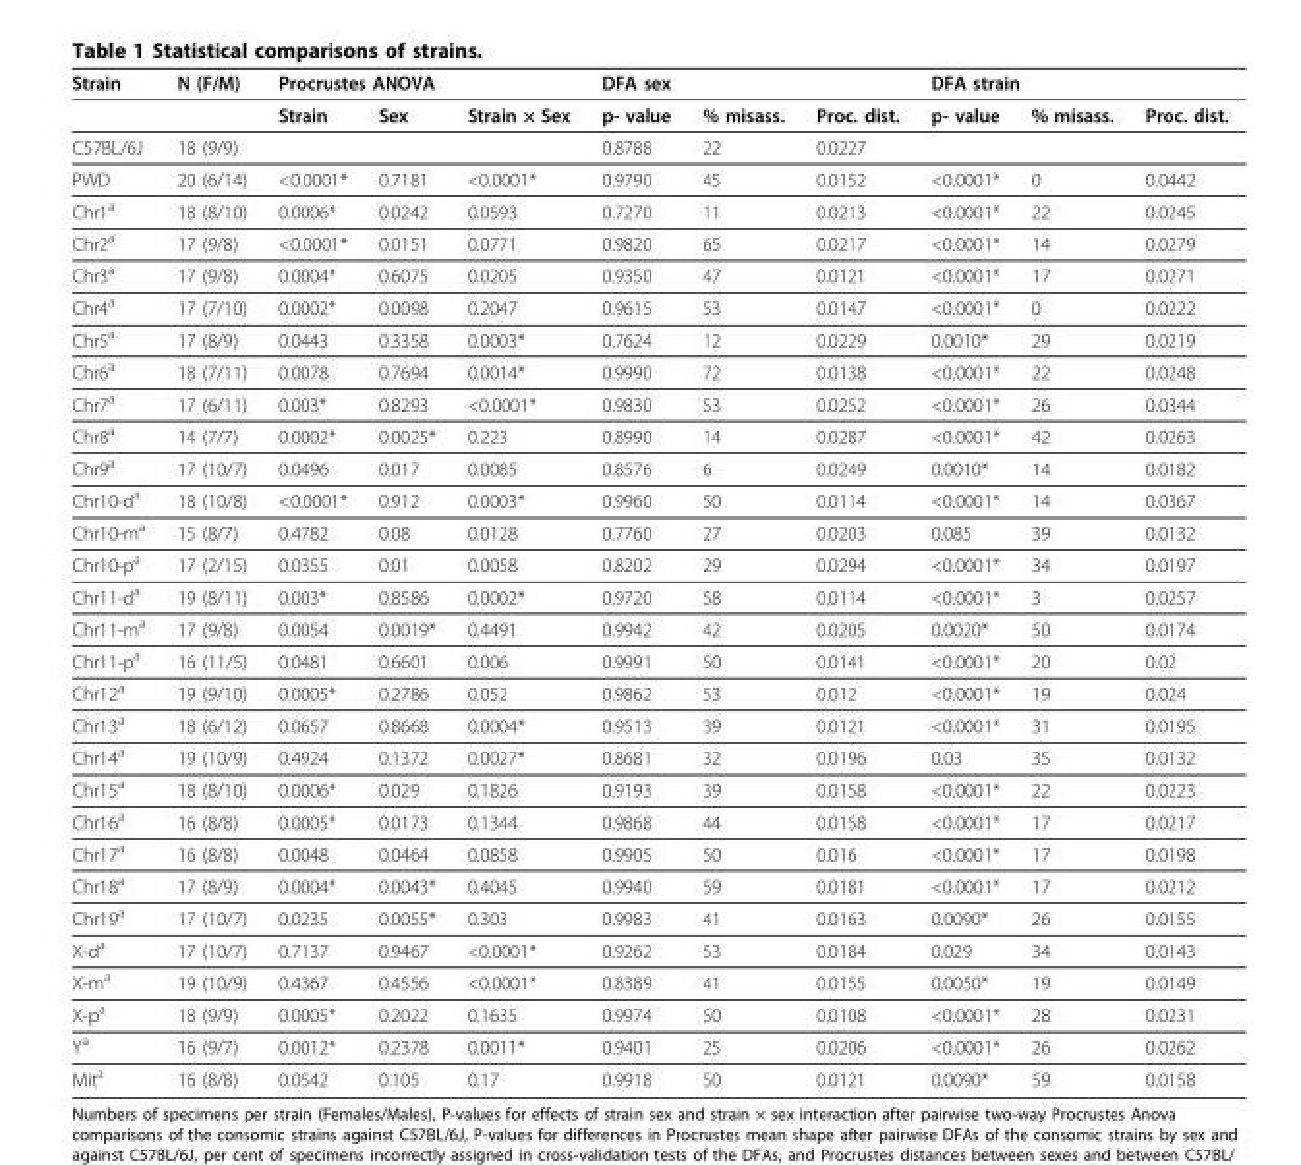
<table><thead><tr><td rowspan="2">Strain</td><td rowspan="2">N (F/M)</td><td colspan="3">Procrustes ANOVA</td><td colspan="2">DFA sex</td><td rowspan="2">Proc. dist.</td><td colspan="2">DFA strain</td><td rowspan="2">Proc. dist.</td></tr><tr><td>Strain</td><td>Sex</td><td>Strain × Sex</td><td>p- value</td><td>% misass.</td><td>p- value</td><td>% misass.</td></tr></thead><tbody><tr><td>C57BL/6J</td><td>18 (9/9)</td><td></td><td></td><td></td><td>0.8788</td><td>22</td><td>0.0227</td><td></td><td></td><td></td></tr><tr><td>PWD</td><td>20 (6/14)</td><td>&lt;0.0001*</td><td>0.7181</td><td>&lt;0.0001*</td><td>0.9790</td><td>45</td><td>0.0152</td><td>&lt;0.0001*</td><td>0</td><td>0.0442</td></tr><tr><td>Chr1<sup>a</sup></td><td>18 (8/10)</td><td>0.0006*</td><td>0.0242</td><td>0.0593</td><td>0.7270</td><td>11</td><td>0.0213</td><td>&lt;0.0001*</td><td>22</td><td>0.0245</td></tr><tr><td>Chr2<sup>a</sup></td><td>17 (9/8)</td><td>&lt;0.0001*</td><td>0.0151</td><td>0.0771</td><td>0.9820</td><td>65</td><td>0.0217</td><td>&lt;0.0001*</td><td>14</td><td>0.0279</td></tr><tr><td>Chr3<sup>a</sup></td><td>17 (9/8)</td><td>0.0004*</td><td>0.6075</td><td>0.0205</td><td>0.9350</td><td>47</td><td>0.0121</td><td>&lt;0.0001*</td><td>17</td><td>0.0271</td></tr><tr><td>Chr4<sup>a</sup></td><td>17 (7/10)</td><td>0.0002*</td><td>0.0098</td><td>0.2047</td><td>0.9615</td><td>53</td><td>0.0147</td><td>&lt;0.0001*</td><td>0</td><td>0.0222</td></tr><tr><td>Chr5<sup>a</sup></td><td>17 (8/9)</td><td>0.0443</td><td>0.3358</td><td>0.0003*</td><td>0.7624</td><td>12</td><td>0.0229</td><td>0.0010*</td><td>29</td><td>0.0219</td></tr><tr><td>Chr6<sup>a</sup></td><td>18 (7/11)</td><td>0.0078</td><td>0.7694</td><td>0.0014*</td><td>0.9990</td><td>72</td><td>0.0138</td><td>&lt;0.0001*</td><td>22</td><td>0.0248</td></tr><tr><td>Chr7<sup>a</sup></td><td>17 (6/11)</td><td>0.003*</td><td>0.8293</td><td>&lt;0.0001*</td><td>0.9830</td><td>53</td><td>0.0252</td><td>&lt;0.0001*</td><td>26</td><td>0.0344</td></tr><tr><td>Chr8<sup>a</sup></td><td>14 (7/7)</td><td>0.0002*</td><td>0.0025*</td><td>0.223</td><td>0.8990</td><td>14</td><td>0.0287</td><td>&lt;0.0001*</td><td>42</td><td>0.0263</td></tr><tr><td>Chr9<sup>a</sup></td><td>17 (10/7)</td><td>0.0496</td><td>0.017</td><td>0.0085</td><td>0.8576</td><td>6</td><td>0.0249</td><td>0.0010*</td><td>14</td><td>0.0182</td></tr><tr><td>Chr10-d<sup>a</sup></td><td>18 (10/8)</td><td>&lt;0.0001*</td><td>0.912</td><td>0.0003*</td><td>0.9960</td><td>50</td><td>0.0114</td><td>&lt;0.0001*</td><td>14</td><td>0.0367</td></tr><tr><td>Chr10-m<sup>a</sup></td><td>15 (8/7)</td><td>0.4782</td><td>0.08</td><td>0.0128</td><td>0.7760</td><td>27</td><td>0.0203</td><td>0.085</td><td>39</td><td>0.0132</td></tr><tr><td>Chr10-p<sup>a</sup></td><td>17 (2/15)</td><td>0.0355</td><td>0.01</td><td>0.0058</td><td>0.8202</td><td>29</td><td>0.0294</td><td>&lt;0.0001*</td><td>34</td><td>0.0197</td></tr><tr><td>Chr11-d<sup>a</sup></td><td>19 (8/11)</td><td>0.003*</td><td>0.8586</td><td>0.0002*</td><td>0.9720</td><td>58</td><td>0.0114</td><td>&lt;0.0001*</td><td>3</td><td>0.0257</td></tr><tr><td>Chr11-m<sup>a</sup></td><td>17 (9/8)</td><td>0.0054</td><td>0.0019*</td><td>0.4491</td><td>0.9942</td><td>42</td><td>0.0205</td><td>0.0020*</td><td>50</td><td>0.0174</td></tr><tr><td>Chr11-p<sup>a</sup></td><td>16 (11/5)</td><td>0.0481</td><td>0.6601</td><td>0.006</td><td>0.9991</td><td>50</td><td>0.0141</td><td>&lt;0.0001*</td><td>20</td><td>0.02</td></tr><tr><td>Chr12<sup>a</sup></td><td>19 (9/10)</td><td>0.0005*</td><td>0.2786</td><td>0.052</td><td>0.9862</td><td>53</td><td>0.012</td><td>&lt;0.0001*</td><td>19</td><td>0.024</td></tr><tr><td>Chr13<sup>a</sup></td><td>18 (6/12)</td><td>0.0657</td><td>0.8668</td><td>0.0004*</td><td>0.9513</td><td>39</td><td>0.0121</td><td>&lt;0.0001*</td><td>31</td><td>0.0195</td></tr><tr><td>Chr14<sup>a</sup></td><td>19 (10/9)</td><td>0.4924</td><td>0.1372</td><td>0.0027*</td><td>0.8681</td><td>32</td><td>0.0196</td><td>0.03</td><td>35</td><td>0.0132</td></tr><tr><td>Chr15<sup>a</sup></td><td>18 (8/10)</td><td>0.0006*</td><td>0.029</td><td>0.1826</td><td>0.9193</td><td>39</td><td>0.0158</td><td>&lt;0.0001*</td><td>22</td><td>0.0223</td></tr><tr><td>Chr16<sup>a</sup></td><td>16 (8/8)</td><td>0.0005*</td><td>0.0173</td><td>0.1344</td><td>0.9868</td><td>44</td><td>0.0158</td><td>&lt;0.0001*</td><td>17</td><td>0.0217</td></tr><tr><td>Chr17<sup>a</sup></td><td>16 (8/8)</td><td>0.0048</td><td>0.0464</td><td>0.0858</td><td>0.9905</td><td>50</td><td>0.016</td><td>&lt;0.0001*</td><td>17</td><td>0.0198</td></tr><tr><td>Chr18<sup>a</sup></td><td>17 (8/9)</td><td>0.0004*</td><td>0.0043*</td><td>0.4045</td><td>0.9940</td><td>59</td><td>0.0181</td><td>&lt;0.0001*</td><td>17</td><td>0.0212</td></tr><tr><td>Chr19<sup>a</sup></td><td>17 (10/7)</td><td>0.0235</td><td>0.0055*</td><td>0.303</td><td>0.9983</td><td>41</td><td>0.0163</td><td>0.0090*</td><td>26</td><td>0.0155</td></tr><tr><td>X-d<sup>a</sup></td><td>17 (10/7)</td><td>0.7137</td><td>0.9467</td><td>&lt;0.0001*</td><td>0.9262</td><td>53</td><td>0.0184</td><td>0.029</td><td>34</td><td>0.0143</td></tr><tr><td>X-m<sup>a</sup></td><td>19 (10/9)</td><td>0.4367</td><td>0.4556</td><td>&lt;0.0001*</td><td>0.8389</td><td>41</td><td>0.0155</td><td>0.0050*</td><td>19</td><td>0.0149</td></tr><tr><td>X-p<sup>a</sup></td><td>18 (9/9)</td><td>0.0005*</td><td>0.2022</td><td>0.1635</td><td>0.9974</td><td>50</td><td>0.0108</td><td>&lt;0.0001*</td><td>28</td><td>0.0231</td></tr><tr><td>Y<sup>a</sup></td><td>16 (9/7)</td><td>0.0012*</td><td>0.2378</td><td>0.0011*</td><td>0.9401</td><td>25</td><td>0.0206</td><td>&lt;0.0001*</td><td>26</td><td>0.0262</td></tr><tr><td>Mit<sup>a</sup></td><td>16 (8/8)</td><td>0.0542</td><td>0.105</td><td>0.17</td><td>0.9918</td><td>50</td><td>0.0121</td><td>0.0090*</td><td>59</td><td>0.0158</td></tr></tbody></table>